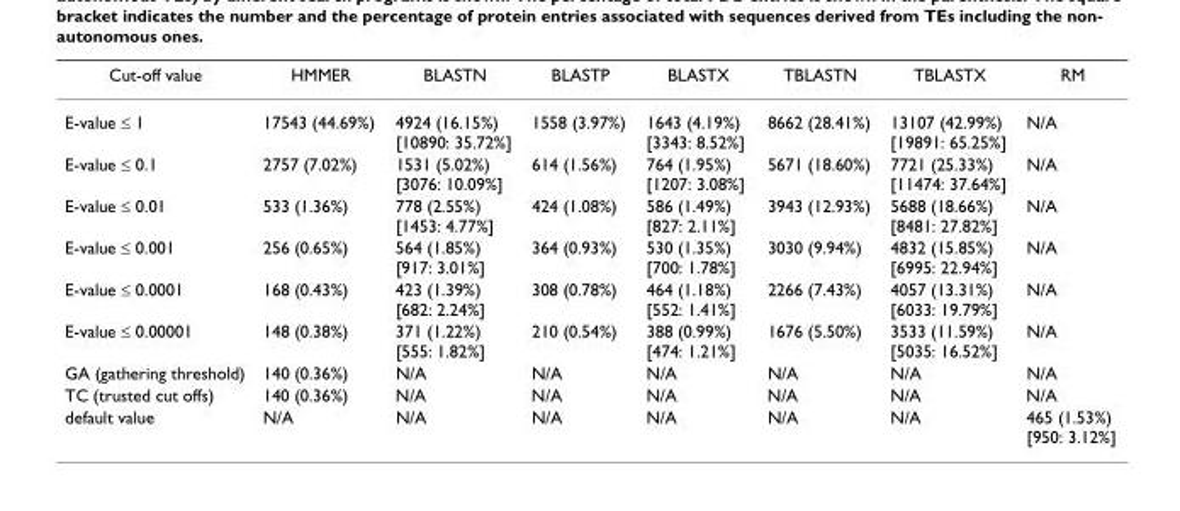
<table><thead><tr><td>Cut-off value</td><td>HMMER</td><td>BLASTN</td><td>BLASTP</td><td>BLASTX</td><td>TBLASTN</td><td>TBLASTX</td><td>RM</td></tr></thead><tbody><tr><td>E-value ≤ 1</td><td>17543 (44.69%)</td><td>4924 (16.15%) [10890: 35.72%]</td><td>1558 (3.97%)</td><td>1643 (4.19%) [3343: 8.52%]</td><td>8662 (28.41%)</td><td>13107 (42.99%) [19891: 65.25%]</td><td>N/A</td></tr><tr><td>E-value ≤ 0.1</td><td>2757 (7.02%)</td><td>1531 (5.02%) [3076: 10.09%]</td><td>614 (1.56%)</td><td>764 (1.95%) [1207: 3.08%]</td><td>5671 (18.60%)</td><td>7721 (25.33%) [11474: 37.64%]</td><td>N/A</td></tr><tr><td>E-value ≤ 0.01</td><td>533 (1.36%)</td><td>778 (2.55%) [1453: 4.77%]</td><td>424 (1.08%)</td><td>586 (1.49%) [827: 2.11%]</td><td>3943 (12.93%)</td><td>5688 (18.66%) [8481: 27.82%]</td><td>N/A</td></tr><tr><td>E-value ≤ 0.001</td><td>256 (0.65%)</td><td>564 (1.85%) [917: 3.01%]</td><td>364 (0.93%)</td><td>530 (1.35%) [700: 1.78%]</td><td>3030 (9.94%)</td><td>4832 (15.85%) [6995: 22.94%]</td><td>N/A</td></tr><tr><td>E-value ≤ 0.0001</td><td>168 (0.43%)</td><td>423 (1.39%) [682: 2.24%]</td><td>308 (0.78%)</td><td>464 (1.18%) [552: 1.41%]</td><td>2266 (7.43%)</td><td>4057 (13.31%) [6033: 19.79%]</td><td>N/A</td></tr><tr><td>E-value ≤ 0.00001</td><td>148 (0.38%)</td><td>371 (1.22%) [555: 1.82%]</td><td>210 (0.54%)</td><td>388 (0.99%) [474: 1.21%]</td><td>1676 (5.50%)</td><td>3533 (11.59%) [5035: 16.52%]</td><td>N/A</td></tr><tr><td>GA (gathering threshold)</td><td>140 (0.36%)</td><td>N/A</td><td>N/A</td><td>N/A</td><td>N/A</td><td>N/A</td><td>N/A</td></tr><tr><td>TC (trusted cut offs)</td><td>140 (0.36%)</td><td>N/A</td><td>N/A</td><td>N/A</td><td>N/A</td><td>N/A</td><td>N/A</td></tr><tr><td>default value</td><td>N/A</td><td>N/A</td><td>N/A</td><td>N/A</td><td>N/A</td><td>N/A</td><td>465 (1.53%) [950: 3.12%]</td></tr></tbody></table>